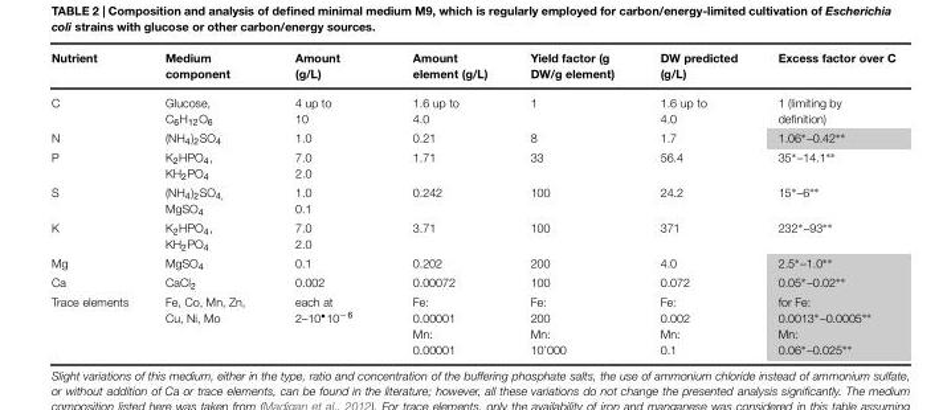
<table><thead><tr><td>Nutrient</td><td>Medium component</td><td>Amount (g/L)</td><td>Amount element (g/L)</td><td>Yield factor (g DW/g element)</td><td>DW predicted (g/L)</td><td>Excess factor over C</td></tr></thead><tbody><tr><td>C</td><td>Glucose, C<sub>6</sub>H<sub>12</sub>O<sub>6</sub></td><td>4 up to 10</td><td>1.6 up to 4.0</td><td>1</td><td>1.6 up to 4.0</td><td>1 (limiting by definition)</td></tr><tr><td>N</td><td>(NH<sub>4</sub>)<sub>2</sub>SO<sub>4</sub></td><td>1.0</td><td>0.21</td><td>8</td><td>1.7</td><td>1.06∗–0.42∗∗</td></tr><tr><td>P</td><td>K<sub>2</sub>HPO<sub>4</sub>, KH<sub>2</sub>PO<sub>4</sub></td><td>7.0 2.0</td><td>1.71</td><td>33</td><td>56.4</td><td>35∗–14.1∗∗</td></tr><tr><td>S</td><td>(NH<sub>4</sub>)<sub>2</sub>SO<sub>4,</sub> MgSO<sub>4</sub></td><td>1.0 0.1</td><td>0.242</td><td>100</td><td>24.2</td><td>15∗–6∗∗</td></tr><tr><td>K</td><td>K<sub>2</sub>HPO<sub>4</sub>, KH<sub>2</sub>PO<sub>4</sub></td><td>7.0 2.0</td><td>3.71</td><td>100</td><td>371</td><td>232∗–93∗∗</td></tr><tr><td>Mg</td><td>MgSO<sub>4</sub></td><td>0.1</td><td>0.202</td><td>200</td><td>4.0</td><td>2.5∗–1.0∗∗</td></tr><tr><td>Ca</td><td>CaCl<sub>2</sub></td><td>0.002</td><td>0.00072</td><td>100</td><td>0.072</td><td>0.05∗–0.02∗∗</td></tr><tr><td>Trace elements</td><td>Fe, Co, Mn, Zn, Cu, Ni, Mo</td><td>each at 2–10<sup>•</sup>10<sup>−6</sup></td><td>Fe: 0.00001 Mn: 0.00001</td><td>Fe: 200 Mn: 10’000</td><td>Fe: 0.002 Mn: 0.1</td><td>for Fe: 0.0013∗–0.0005∗∗ Mn: 0.06∗–0.025∗∗</td></tr></tbody></table>